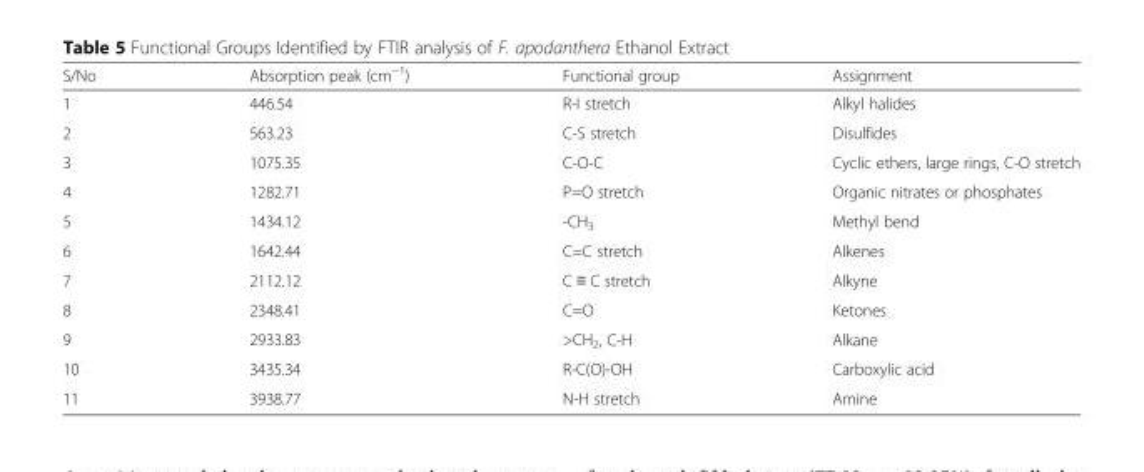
<table><thead><tr><td>S/No</td><td>Absorption peak (cm<sup>−1</sup>)</td><td>Functional group</td><td>Assignment</td></tr></thead><tbody><tr><td>1</td><td>446.54</td><td>R-I stretch</td><td>Alkyl halides</td></tr><tr><td>2</td><td>563.23</td><td>C-S stretch</td><td>Disulfides</td></tr><tr><td>3</td><td>1075.35</td><td>C-O-C</td><td>Cyclic ethers, large rings, C-O stretch</td></tr><tr><td>4</td><td>1282.71</td><td>P=O stretch</td><td>Organic nitrates or phosphates</td></tr><tr><td>5</td><td>1434.12</td><td>-CH<sub>3</sub></td><td>Methyl bend</td></tr><tr><td>6</td><td>1642.44</td><td>C=C stretch</td><td>Alkenes</td></tr><tr><td>7</td><td>2112.12</td><td>C ≡ C stretch</td><td>Alkyne</td></tr><tr><td>8</td><td>2348.41</td><td>C=O</td><td>Ketones</td></tr><tr><td>9</td><td>2933.83</td><td>&gt;CH<sub>2</sub>, C-H</td><td>Alkane</td></tr><tr><td>10</td><td>3435.34</td><td>R-C(O)-OH</td><td>Carboxylic acid</td></tr><tr><td>11</td><td>3938.77</td><td>N-H stretch</td><td>Amine</td></tr></tbody></table>